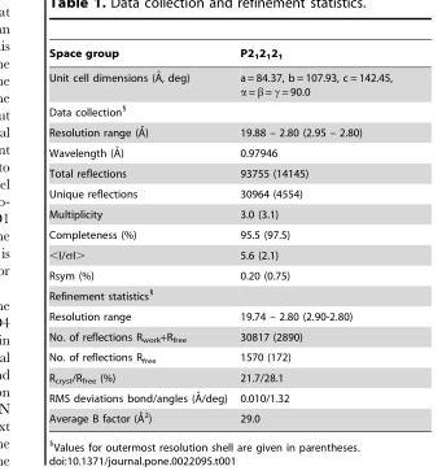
<table><thead><tr><td>Space group</td><td>P2<sub>1</sub>2<sub>1</sub>2<sub>1</sub></td></tr></thead><tbody><tr><td>Unit cell dimensions (A˚, deg)</td><td>a = 84.37, b = 107.93, c = 142.45, α = β = γ = 90.0</td></tr><tr><td colspan="2">Data collection§</td></tr><tr><td>Resolution range (A˚)</td><td>19.88 – 2.80 (2.95 – 2.80)</td></tr><tr><td>Wavelength (A˚)</td><td>0.97946</td></tr><tr><td>Total reflections</td><td>93755 (14145)</td></tr><tr><td>Unique reflections</td><td>30964 (4554)</td></tr><tr><td>Multiplicity</td><td>3.0 (3.1)</td></tr><tr><td>Completeness (%)</td><td>95.5 (97.5)</td></tr><tr><td>&lt;I/σI&gt;</td><td>5.6 (2.1)</td></tr><tr><td>Rsym (%)</td><td>0.20 (0.75)</td></tr><tr><td colspan="2">Refinement statistics§</td></tr><tr><td>Resolution range</td><td>19.74 – 2.80 (2.90-2.80)</td></tr><tr><td>No. of reflections R<sub>work</sub>+R<sub>free</sub></td><td>30817 (2890)</td></tr><tr><td>No. of reflections R<sub>free</sub></td><td>1570 (172)</td></tr><tr><td>R<sub>cryst</sub>/R<sub>free</sub> (%)</td><td>21.7/28.1</td></tr><tr><td>RMS deviations bond/angles (A˚/deg)</td><td>0.010/1.32</td></tr><tr><td>Average B factor (A˚ 2)</td><td>29.0</td></tr></tbody></table>